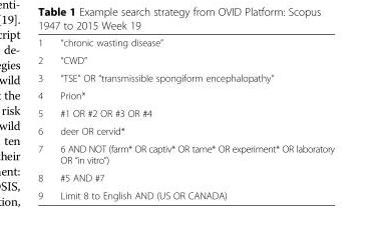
<table><tbody><tr><td>1</td><td>“chronic wasting disease”</td></tr><tr><td>2</td><td>“CWD”</td></tr><tr><td>3</td><td>“TSE” OR “transmissible spongiform encephalopathy”</td></tr><tr><td>4</td><td>Prion*</td></tr><tr><td>5</td><td>#1 OR #2 OR #3 OR #4</td></tr><tr><td>6</td><td>deer OR cervid*</td></tr><tr><td>7</td><td>6 AND NOT (farm* OR captiv* OR tame* OR experiment* OR laboratory OR “in vitro”)</td></tr><tr><td>8</td><td>#5 AND #7</td></tr><tr><td>9</td><td>Limit 8 to English AND (US OR CANADA)</td></tr></tbody></table>